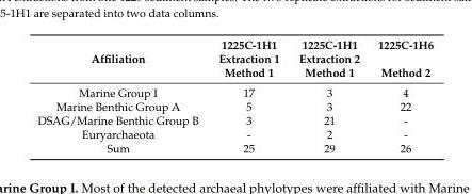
<table><thead><tr><td>Affiliation</td><td>1225C-1H1 Extraction 1 Method 1</td><td>1225C-1H1 Extraction 2 Method 1</td><td>1225C-1H6 Method 2</td></tr></thead><tbody><tr><td>Marine Group I</td><td>17</td><td>3</td><td>4</td></tr><tr><td>Marine Benthic Group A</td><td>5</td><td>3</td><td>22</td></tr><tr><td>DSAG/Marine Benthic Group B</td><td>3</td><td>21</td><td>-</td></tr><tr><td>Euryarchaeota</td><td>-</td><td>2</td><td>-</td></tr><tr><td>Sum</td><td>25</td><td>29</td><td>26</td></tr></tbody></table>